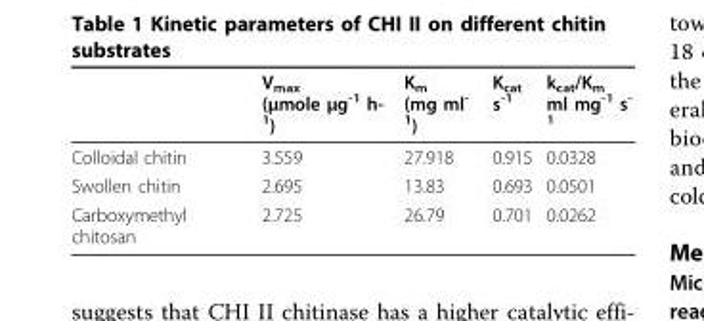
<table><thead><tr><td></td><td>V<sub>max</sub> (μmole μg<sup>-1</sup> h- <sup>1</sup>)</td><td>K<sub>m</sub> (mg ml<sup>- 1</sup>)</td><td>K<sub>cat</sub> s<sup>-1</sup></td><td>k<sub>cat</sub>/K<sub>m</sub> ml mg<sup>-1</sup> s<sup>- 1</sup></td></tr></thead><tbody><tr><td>Colloidal chitin</td><td>3.559</td><td>27.918</td><td>0.915</td><td>0.0328</td></tr><tr><td>Swollen chitin</td><td>2.695</td><td>13.83</td><td>0.693</td><td>0.0501</td></tr><tr><td>Carboxymethyl chitosan</td><td>2.725</td><td>26.79</td><td>0.701</td><td>0.0262</td></tr></tbody></table>